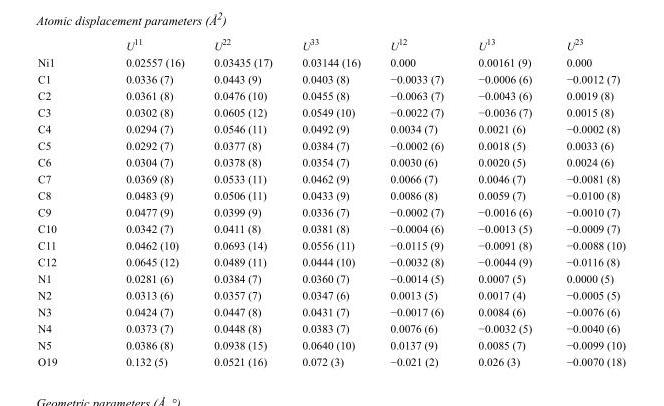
<table><thead><tr><td></td><td>U<sup>11</sup></td><td>U<sup>22</sup></td><td>U<sup>33</sup></td><td>U<sup>12</sup></td><td>U<sup>13</sup></td><td>U<sup>23</sup></td></tr></thead><tbody><tr><td>Ni1</td><td>0.02557 (16)</td><td>0.03435 (17)</td><td>0.03144 (16)</td><td>0.000</td><td>0.00161 (9)</td><td>0.000</td></tr><tr><td>C1</td><td>0.0336 (7)</td><td>0.0443 (9)</td><td>0.0403 (8)</td><td>−0.0033 (7)</td><td>−0.0006 (6)</td><td>−0.0012 (7)</td></tr><tr><td>C2</td><td>0.0361 (8)</td><td>0.0476 (10)</td><td>0.0455 (8)</td><td>−0.0063 (7)</td><td>−0.0043 (6)</td><td>0.0019 (8)</td></tr><tr><td>C3</td><td>0.0302 (8)</td><td>0.0605 (12)</td><td>0.0549 (10)</td><td>−0.0022 (7)</td><td>−0.0036 (7)</td><td>0.0015 (8)</td></tr><tr><td>C4</td><td>0.0294 (7)</td><td>0.0546 (11)</td><td>0.0492 (9)</td><td>0.0034 (7)</td><td>0.0021 (6)</td><td>−0.0002 (8)</td></tr><tr><td>C5</td><td>0.0292 (7)</td><td>0.0377 (8)</td><td>0.0384 (7)</td><td>−0.0002 (6)</td><td>0.0018 (5)</td><td>0.0033 (6)</td></tr><tr><td>C6</td><td>0.0304 (7)</td><td>0.0378 (8)</td><td>0.0354 (7)</td><td>0.0030 (6)</td><td>0.0020 (5)</td><td>0.0024 (6)</td></tr><tr><td>C7</td><td>0.0369 (8)</td><td>0.0533 (11)</td><td>0.0462 (9)</td><td>0.0066 (7)</td><td>0.0046 (7)</td><td>−0.0081 (8)</td></tr><tr><td>C8</td><td>0.0483 (9)</td><td>0.0506 (11)</td><td>0.0433 (9)</td><td>0.0086 (8)</td><td>0.0059 (7)</td><td>−0.0100 (8)</td></tr><tr><td>C9</td><td>0.0477 (9)</td><td>0.0399 (9)</td><td>0.0336 (7)</td><td>−0.0002 (7)</td><td>−0.0016 (6)</td><td>−0.0010 (7)</td></tr><tr><td>C10</td><td>0.0342 (7)</td><td>0.0411 (8)</td><td>0.0381 (8)</td><td>−0.0004 (6)</td><td>−0.0013 (5)</td><td>−0.0009 (7)</td></tr><tr><td>C11</td><td>0.0462 (10)</td><td>0.0693 (14)</td><td>0.0556 (11)</td><td>−0.0115 (9)</td><td>−0.0091 (8)</td><td>−0.0088 (10)</td></tr><tr><td>C12</td><td>0.0645 (12)</td><td>0.0489 (11)</td><td>0.0444 (10)</td><td>−0.0032 (8)</td><td>−0.0044 (9)</td><td>−0.0116 (8)</td></tr><tr><td>N1</td><td>0.0281 (6)</td><td>0.0384 (7)</td><td>0.0360 (7)</td><td>−0.0014 (5)</td><td>0.0007 (5)</td><td>0.0000 (5)</td></tr><tr><td>N2</td><td>0.0313 (6)</td><td>0.0357 (7)</td><td>0.0347 (6)</td><td>0.0013 (5)</td><td>0.0017 (4)</td><td>−0.0005 (5)</td></tr><tr><td>N3</td><td>0.0424 (7)</td><td>0.0447 (8)</td><td>0.0431 (7)</td><td>−0.0017 (6)</td><td>0.0084 (6)</td><td>−0.0076 (6)</td></tr><tr><td>N4</td><td>0.0373 (7)</td><td>0.0448 (8)</td><td>0.0383 (7)</td><td>0.0076 (6)</td><td>−0.0032 (5)</td><td>−0.0040 (6)</td></tr><tr><td>N5</td><td>0.0386 (8)</td><td>0.0938 (15)</td><td>0.0640 (10)</td><td>0.0137 (9)</td><td>0.0085 (7)</td><td>−0.0099 (10)</td></tr><tr><td>O19</td><td>0.132 (5)</td><td>0.0521 (16)</td><td>0.072 (3)</td><td>−0.021 (2)</td><td>0.026 (3)</td><td>−0.0070 (18)</td></tr></tbody></table>